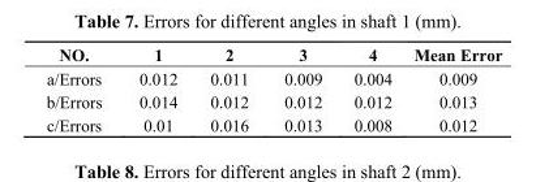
<table><thead><tr><td>NO.</td><td>1</td><td>2</td><td>3</td><td>4</td><td>Mean Error</td></tr></thead><tbody><tr><td>a/Errors</td><td>0.012</td><td>0.011</td><td>0.009</td><td>0.004</td><td>0.009</td></tr><tr><td>b/Errors</td><td>0.014</td><td>0.012</td><td>0.012</td><td>0.012</td><td>0.013</td></tr><tr><td>c/Errors</td><td>0.01</td><td>0.016</td><td>0.013</td><td>0.008</td><td>0.012</td></tr></tbody></table>